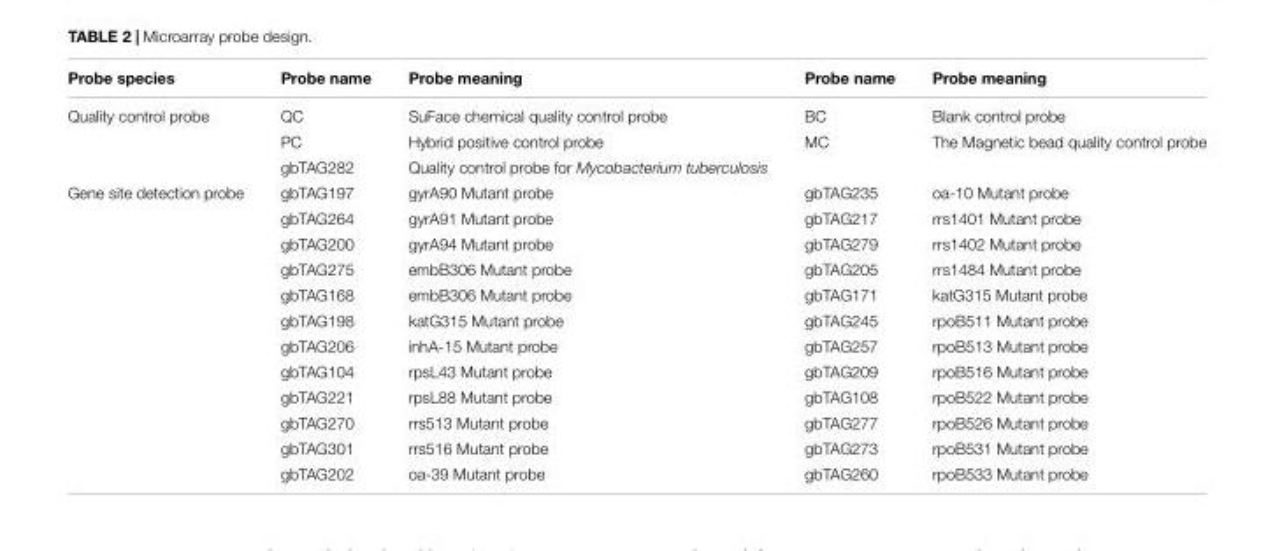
<table><thead><tr><td>Probe species</td><td>Probe name</td><td>Probe meaning</td><td>Probe name</td><td>Probe meaning</td></tr></thead><tbody><tr><td rowspan="3">Quality control probe</td><td>QC</td><td>SuFace chemical quality control probe</td><td>BC</td><td>Blank control probe</td></tr><tr><td>PC</td><td>Hybrid positive control probe</td><td>MC</td><td>The Magnetic bead quality control probe</td></tr><tr><td>gbTAG282</td><td>Quality control probe for Mycobacterium tuberculosis</td><td></td><td></td></tr><tr><td rowspan="12">Gene site detection probe</td><td>gbTAG197</td><td>gyrA90 Mutant probe</td><td>gbTAG235</td><td>oa-10 Mutant probe</td></tr><tr><td>gbTAG264</td><td>gyrA91 Mutant probe</td><td>gbTAG217</td><td>rrs1401 Mutant probe</td></tr><tr><td>gbTAG200</td><td>gyrA94 Mutant probe</td><td>gbTAG279</td><td>rrs1402 Mutant probe</td></tr><tr><td>gbTAG275</td><td>embB306 Mutant probe</td><td>gbTAG205</td><td>rrs1484 Mutant probe</td></tr><tr><td>gbTAG168</td><td>embB306 Mutant probe</td><td>gbTAG171</td><td>katG315 Mutant probe</td></tr><tr><td>gbTAG198</td><td>katG315 Mutant probe</td><td>gbTAG245</td><td>rpoB511 Mutant probe</td></tr><tr><td>gbTAG206</td><td>inhA-15 Mutant probe</td><td>gbTAG257</td><td>rpoB513 Mutant probe</td></tr><tr><td>gbTAG104</td><td>rpsL43 Mutant probe</td><td>gbTAG209</td><td>rpoB516 Mutant probe</td></tr><tr><td>gbTAG221</td><td>rpsL88 Mutant probe</td><td>gbTAG108</td><td>rpoB522 Mutant probe</td></tr><tr><td>gbTAG270</td><td>rrs513 Mutant probe</td><td>gbTAG277</td><td>rpoB526 Mutant probe</td></tr><tr><td>gbTAG301</td><td>rrs516 Mutant probe</td><td>gbTAG273</td><td>rpoB531 Mutant probe</td></tr><tr><td>gbTAG202</td><td>oa-39 Mutant probe</td><td>gbTAG260</td><td>rpoB533 Mutant probe</td></tr></tbody></table>